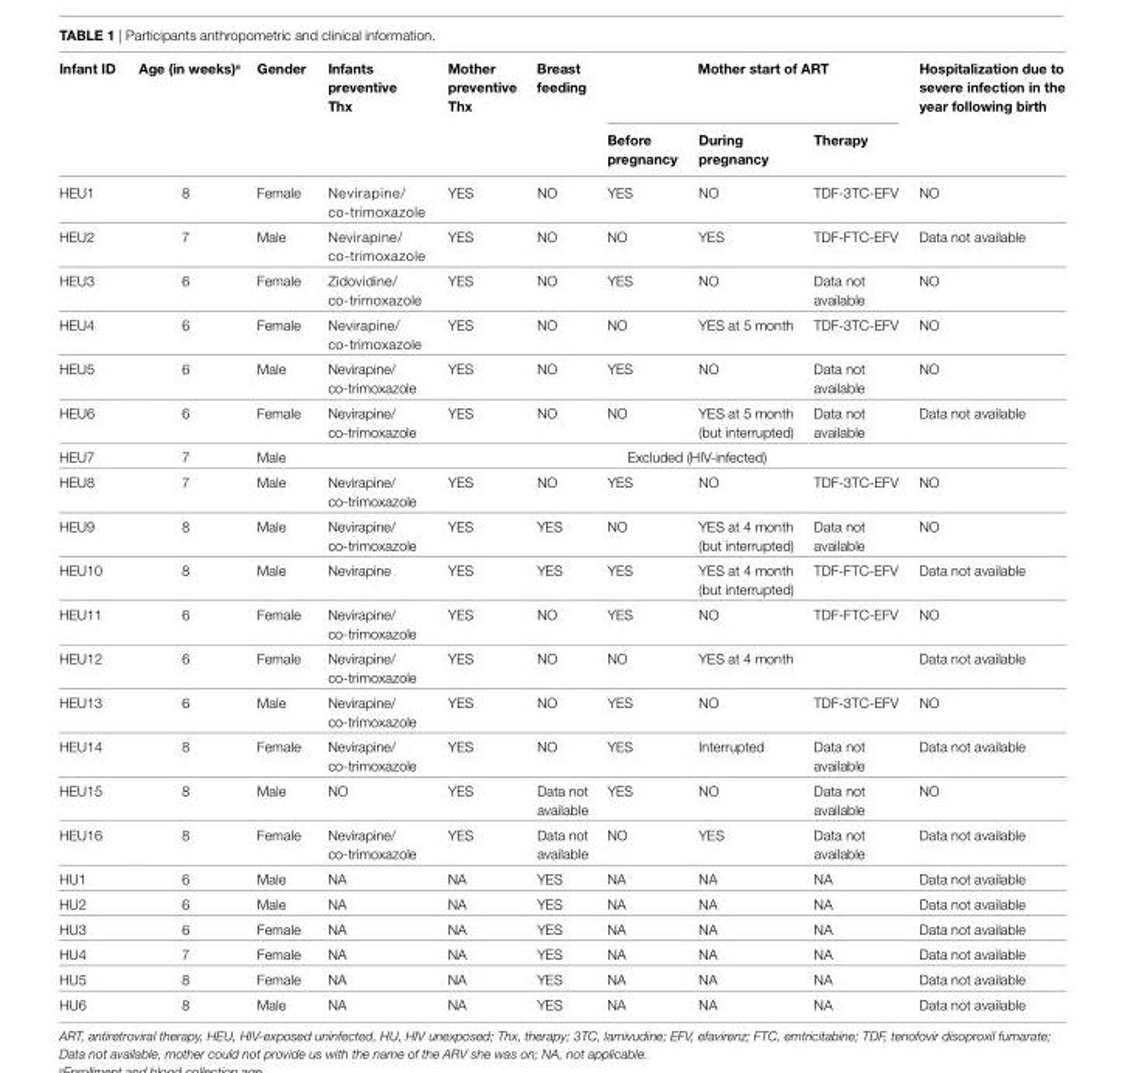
<table><thead><tr><td rowspan="2">infant iD</td><td rowspan="2">age (in weeks)<sup>a</sup></td><td rowspan="2">gender</td><td rowspan="2">infants preventive Thx</td><td rowspan="2">Mother preventive Thx</td><td rowspan="2">Breast feeding</td><td colspan="3">Mother start of arT</td><td rowspan="2">hospitalization due to severe infection in the year following birth</td></tr><tr><td>Before pregnancy</td><td>During pregnancy</td><td>Therapy</td></tr></thead><tbody><tr><td>HEU1</td><td>8</td><td>Female</td><td>Nevirapine/ co-trimoxazole</td><td>YES</td><td>NO</td><td>YES</td><td>NO</td><td>TDF-3TC-EFV</td><td>NO</td></tr><tr><td>HEU2</td><td>7</td><td>Male</td><td>Nevirapine/ co-trimoxazole</td><td>YES</td><td>NO</td><td>NO</td><td>YES</td><td>TDF-FTC-EFV</td><td>Data not available</td></tr><tr><td>HEU3</td><td>6</td><td>Female</td><td>Zidovidine/ co-trimoxazole</td><td>YES</td><td>NO</td><td>YES</td><td>NO</td><td>Data not available</td><td>NO</td></tr><tr><td>HEU4</td><td>6</td><td>Female</td><td>Nevirapine/ co-trimoxazole</td><td>YES</td><td>NO</td><td>NO</td><td>YES at 5 month</td><td>TDF-3TC-EFV</td><td>NO</td></tr><tr><td>HEU5</td><td>6</td><td>Male</td><td>Nevirapine/ co-trimoxazole</td><td>YES</td><td>NO</td><td>YES</td><td>NO</td><td>Data not available</td><td>NO</td></tr><tr><td>HEU6</td><td>6</td><td>Female</td><td>Nevirapine/ co-trimoxazole</td><td>YES</td><td>NO</td><td>NO</td><td>YES at 5 month (but interrupted)</td><td>Data not available</td><td>Data not available</td></tr><tr><td>HEU7</td><td>7</td><td>Male</td><td colspan="7">Excluded (HIV-infected)</td></tr><tr><td>HEU8</td><td>7</td><td>Male</td><td>Nevirapine/ co-trimoxazole</td><td>YES</td><td>NO</td><td>YES</td><td>NO</td><td>TDF-3TC-EFV</td><td>NO</td></tr><tr><td>HEU9</td><td>8</td><td>Male</td><td>Nevirapine/ co-trimoxazole</td><td>YES</td><td>YES</td><td>NO</td><td>YES at 4 month (but interrupted)</td><td>Data not available</td><td>NO</td></tr><tr><td>HEU10</td><td>8</td><td>Male</td><td>Nevirapine</td><td>YES</td><td>YES</td><td>YES</td><td>YES at 4 month (but interrupted)</td><td>TDF-FTC-EFV</td><td>Data not available</td></tr><tr><td>HEU11</td><td>6</td><td>Female</td><td>Nevirapine/ co-trimoxazole</td><td>YES</td><td>NO</td><td>YES</td><td>NO</td><td>TDF-FTC-EFV</td><td>NO</td></tr><tr><td>HEU12</td><td>6</td><td>Female</td><td>Nevirapine/ co-trimoxazole</td><td>YES</td><td>NO</td><td>NO</td><td>YES at 4 month</td><td></td><td>Data not available</td></tr><tr><td>HEU13</td><td>6</td><td>Male</td><td>Nevirapine/ co-trimoxazole</td><td>YES</td><td>NO</td><td>YES</td><td>NO</td><td>TDF-3TC-EFV</td><td>NO</td></tr><tr><td>HEU14</td><td>8</td><td>Female</td><td>Nevirapine/ co-trimoxazole</td><td>YES</td><td>NO</td><td>YES</td><td>Interrupted</td><td>Data not available</td><td>Data not available</td></tr><tr><td>HEU15</td><td>8</td><td>Male</td><td>NO</td><td>YES</td><td>Data not available</td><td>YES</td><td>NO</td><td>Data not available</td><td>NO</td></tr><tr><td>HEU16</td><td>8</td><td>Female</td><td>Nevirapine/ co-trimoxazole</td><td>YES</td><td>Data not available</td><td>NO</td><td>YES</td><td>Data not available</td><td>Data not available</td></tr><tr><td>HU1</td><td>6</td><td>Male</td><td>NA</td><td>NA</td><td>YES</td><td>NA</td><td>NA</td><td>NA</td><td>Data not available</td></tr><tr><td>HU2</td><td>6</td><td>Male</td><td>NA</td><td>NA</td><td>YES</td><td>NA</td><td>NA</td><td>NA</td><td>Data not available</td></tr><tr><td>HU3</td><td>6</td><td>Female</td><td>NA</td><td>NA</td><td>YES</td><td>NA</td><td>NA</td><td>NA</td><td>Data not available</td></tr><tr><td>HU4</td><td>7</td><td>Female</td><td>NA</td><td>NA</td><td>YES</td><td>NA</td><td>NA</td><td>NA</td><td>Data not available</td></tr><tr><td>HU5</td><td>8</td><td>Female</td><td>NA</td><td>NA</td><td>YES</td><td>NA</td><td>NA</td><td>NA</td><td>Data not available</td></tr><tr><td>HU6</td><td>8</td><td>Male</td><td>NA</td><td>NA</td><td>YES</td><td>NA</td><td>NA</td><td>NA</td><td>Data not available</td></tr></tbody></table>